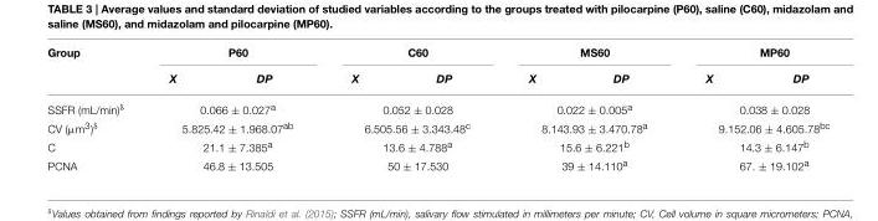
<table><thead><tr><td rowspan="2">Group</td><td colspan="2">P60</td><td colspan="2">C60</td><td colspan="2">MS60</td><td colspan="2">MP60</td></tr><tr><td>X</td><td>DP</td><td>X</td><td>DP</td><td>X</td><td>DP</td><td>X</td><td>DP</td></tr></thead><tbody><tr><td>SSFR (mL/min)<sup>δ</sup></td><td colspan="2">0.066 ± 0.027<sup>a</sup></td><td colspan="2">0.052 ± 0.028</td><td colspan="2">0.022 ± 0.005<sup>a</sup></td><td colspan="2">0.038 ± 0.028</td></tr><tr><td>CV (µm3)<sup>δ</sup></td><td colspan="2">5.825.42 ± 1.968.07<sup>ab</sup></td><td colspan="2">6.505.56 ± 3.343.48<sup>c</sup></td><td colspan="2">8.143.93 ± 3.470.78<sup>a</sup></td><td colspan="2">9.152.06 ± 4.605.78<sup>bc</sup></td></tr><tr><td>C</td><td colspan="2">21.1 ± 7.385<sup>a</sup></td><td colspan="2">13.6 ± 4.788<sup>a</sup></td><td colspan="2">15.6 ± 6.221<sup>b</sup></td><td colspan="2">14.3 ± 6.147<sup>b</sup></td></tr><tr><td>PCNA</td><td colspan="2">46.8 ± 13.505</td><td colspan="2">50 ± 17.530</td><td colspan="2">39 ± 14.110<sup>a</sup></td><td colspan="2">67. ± 19.102<sup>a</sup></td></tr></tbody></table>